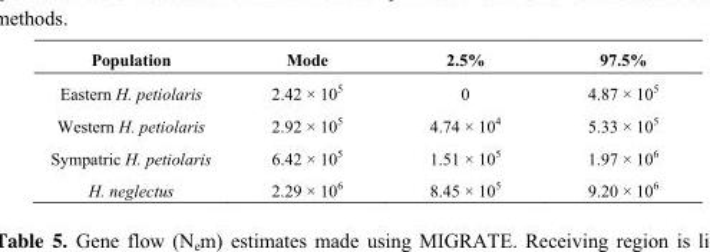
<table><thead><tr><td>Population</td><td>Mode</td><td>2.5%</td><td>97.5%</td></tr></thead><tbody><tr><td>Eastern H. petiolaris</td><td>2.42 × 10<sup>5</sup></td><td>0</td><td>4.87 × 10<sup>5</sup></td></tr><tr><td>Western H. petiolaris</td><td>2.92 × 10<sup>5</sup></td><td>4.74 × 10<sup>4</sup></td><td>5.33 × 10<sup>5</sup></td></tr><tr><td>Sympatric H. petiolaris</td><td>6.42 × 10<sup>5</sup></td><td>1.51 × 10<sup>5</sup></td><td>1.97 × 10<sup>6</sup></td></tr><tr><td>H. neglectus</td><td>2.29 × 10<sup>6</sup></td><td>8.45 × 10<sup>5</sup></td><td>9.20 × 10<sup>6</sup></td></tr></tbody></table>